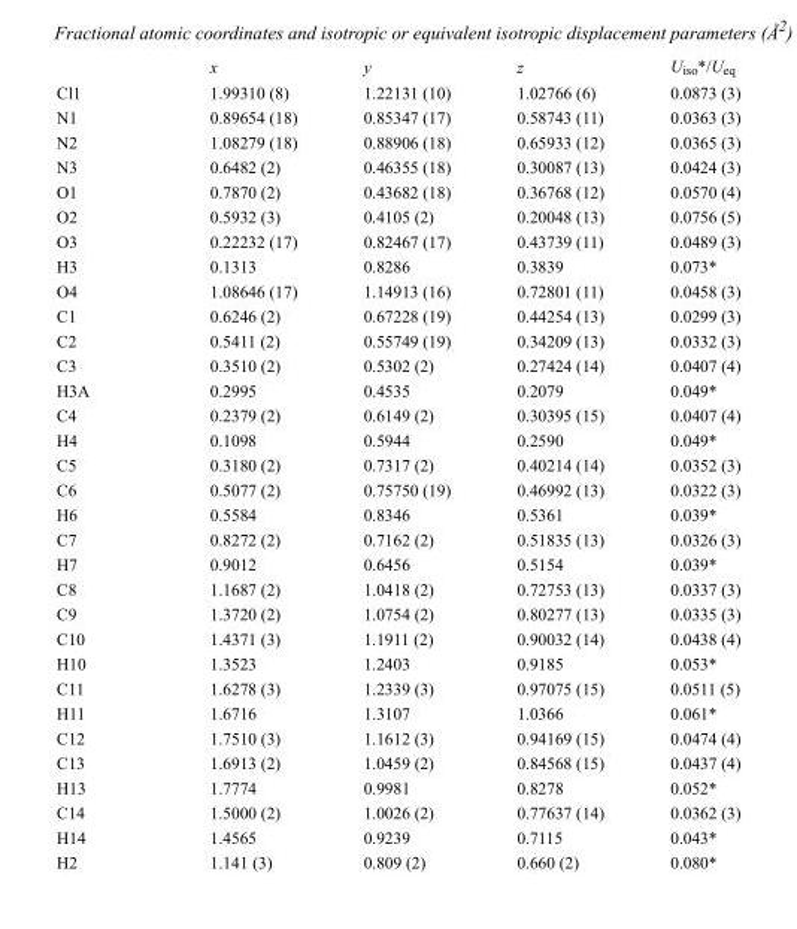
<table><thead><tr><td></td><td>x</td><td>y</td><td>z</td><td>U<sub>iso</sub>*/U<sub>eq</sub></td></tr></thead><tbody><tr><td>Cl1</td><td>1.99310 (8)</td><td>1.22131 (10)</td><td>1.02766 (6)</td><td>0.0873 (3)</td></tr><tr><td>N1</td><td>0.89654 (18)</td><td>0.85347 (17)</td><td>0.58743 (11)</td><td>0.0363 (3)</td></tr><tr><td>N2</td><td>1.08279 (18)</td><td>0.88906 (18)</td><td>0.65933 (12)</td><td>0.0365 (3)</td></tr><tr><td>N3</td><td>0.6482 (2)</td><td>0.46355 (18)</td><td>0.30087 (13)</td><td>0.0424 (3)</td></tr><tr><td>O1</td><td>0.7870 (2)</td><td>0.43682 (18)</td><td>0.36768 (12)</td><td>0.0570 (4)</td></tr><tr><td>O2</td><td>0.5932 (3)</td><td>0.4105 (2)</td><td>0.20048 (13)</td><td>0.0756 (5)</td></tr><tr><td>O3</td><td>0.22232 (17)</td><td>0.82467 (17)</td><td>0.43739 (11)</td><td>0.0489 (3)</td></tr><tr><td>H3</td><td>0.1313</td><td>0.8286</td><td>0.3839</td><td>0.073*</td></tr><tr><td>O4</td><td>1.08646 (17)</td><td>1.14913 (16)</td><td>0.72801 (11)</td><td>0.0458 (3)</td></tr><tr><td>C1</td><td>0.6246 (2)</td><td>0.67228 (19)</td><td>0.44254 (13)</td><td>0.0299 (3)</td></tr><tr><td>C2</td><td>0.5411 (2)</td><td>0.55749 (19)</td><td>0.34209 (13)</td><td>0.0332 (3)</td></tr><tr><td>C3</td><td>0.3510 (2)</td><td>0.5302 (2)</td><td>0.27424 (14)</td><td>0.0407 (4)</td></tr><tr><td>H3A</td><td>0.2995</td><td>0.4535</td><td>0.2079</td><td>0.049*</td></tr><tr><td>C4</td><td>0.2379 (2)</td><td>0.6149 (2)</td><td>0.30395 (15)</td><td>0.0407 (4)</td></tr><tr><td>H4</td><td>0.1098</td><td>0.5944</td><td>0.2590</td><td>0.049*</td></tr><tr><td>C5</td><td>0.3180 (2)</td><td>0.7317 (2)</td><td>0.40214 (14)</td><td>0.0352 (3)</td></tr><tr><td>C6</td><td>0.5077 (2)</td><td>0.75750 (19)</td><td>0.46992 (13)</td><td>0.0322 (3)</td></tr><tr><td>H6</td><td>0.5584</td><td>0.8346</td><td>0.5361</td><td>0.039*</td></tr><tr><td>C7</td><td>0.8272 (2)</td><td>0.7162 (2)</td><td>0.51835 (13)</td><td>0.0326 (3)</td></tr><tr><td>H7</td><td>0.9012</td><td>0.6456</td><td>0.5154</td><td>0.039*</td></tr><tr><td>C8</td><td>1.1687 (2)</td><td>1.0418 (2)</td><td>0.72753 (13)</td><td>0.0337 (3)</td></tr><tr><td>C9</td><td>1.3720 (2)</td><td>1.0754 (2)</td><td>0.80277 (13)</td><td>0.0335 (3)</td></tr><tr><td>C10</td><td>1.4371 (3)</td><td>1.1911 (2)</td><td>0.90032 (14)</td><td>0.0438 (4)</td></tr><tr><td>H10</td><td>1.3523</td><td>1.2403</td><td>0.9185</td><td>0.053*</td></tr><tr><td>C11</td><td>1.6278 (3)</td><td>1.2339 (3)</td><td>0.97075 (15)</td><td>0.0511 (5)</td></tr><tr><td>H11</td><td>1.6716</td><td>1.3107</td><td>1.0366</td><td>0.061*</td></tr><tr><td>C12</td><td>1.7510 (3)</td><td>1.1612 (3)</td><td>0.94169 (15)</td><td>0.0474 (4)</td></tr><tr><td>C13</td><td>1.6913 (2)</td><td>1.0459 (2)</td><td>0.84568 (15)</td><td>0.0437 (4)</td></tr><tr><td>H13</td><td>1.7774</td><td>0.9981</td><td>0.8278</td><td>0.052*</td></tr><tr><td>C14</td><td>1.5000 (2)</td><td>1.0026 (2)</td><td>0.77637 (14)</td><td>0.0362 (3)</td></tr><tr><td>H14</td><td>1.4565</td><td>0.9239</td><td>0.7115</td><td>0.043*</td></tr><tr><td>H2</td><td>1.141 (3)</td><td>0.809 (2)</td><td>0.660 (2)</td><td>0.080*</td></tr></tbody></table>